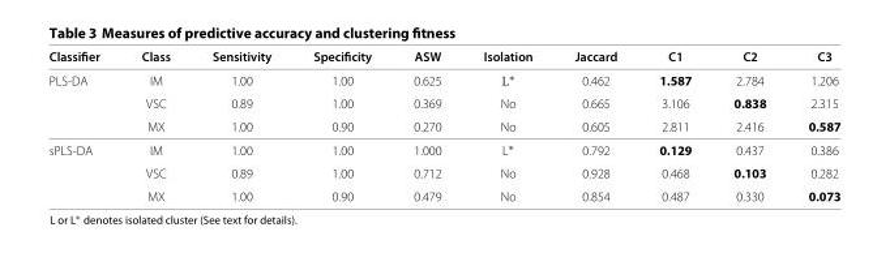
<table><thead><tr><td>Classifier</td><td>Class</td><td>Sensitivity</td><td>Specificity</td><td>ASW</td><td>Isolation</td><td>Jaccard</td><td>C1</td><td>C2</td><td>C3</td></tr></thead><tbody><tr><td rowspan="3">PLS-DA</td><td>IM</td><td>1.00</td><td>1.00</td><td>0.625</td><td>L∗</td><td>0.462</td><td>1.587</td><td>2.784</td><td>1.206</td></tr><tr><td>VSC</td><td>0.89</td><td>1.00</td><td>0.369</td><td>No</td><td>0.665</td><td>3.106</td><td>0.838</td><td>2.315</td></tr><tr><td>MX</td><td>1.00</td><td>0.90</td><td>0.270</td><td>No</td><td>0.605</td><td>2.811</td><td>2.416</td><td>0.587</td></tr><tr><td rowspan="3">sPLS-DA</td><td>IM</td><td>1.00</td><td>1.00</td><td>1.000</td><td>L∗</td><td>0.792</td><td>0.129</td><td>0.437</td><td>0.386</td></tr><tr><td>VSC</td><td>0.89</td><td>1.00</td><td>0.712</td><td>No</td><td>0.928</td><td>0.468</td><td>0.103</td><td>0.282</td></tr><tr><td>MX</td><td>1.00</td><td>0.90</td><td>0.479</td><td>No</td><td>0.854</td><td>0.487</td><td>0.330</td><td>0.073</td></tr></tbody></table>